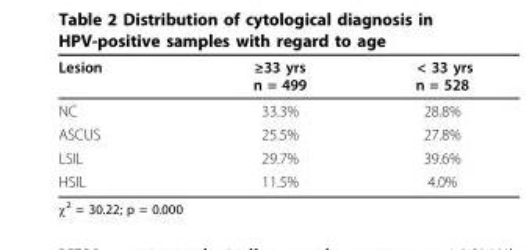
<table><thead><tr><td>Lesion</td><td>≥33 yrs n = 499</td><td>&lt; 33 yrs n = 528</td></tr></thead><tbody><tr><td>NC</td><td>33.3%</td><td>28.8%</td></tr><tr><td>ASCUS</td><td>25.5%</td><td>27.8%</td></tr><tr><td>LSIL</td><td>29.7%</td><td>39.6%</td></tr><tr><td>HSIL</td><td>11.5%</td><td>4.0%</td></tr></tbody></table>